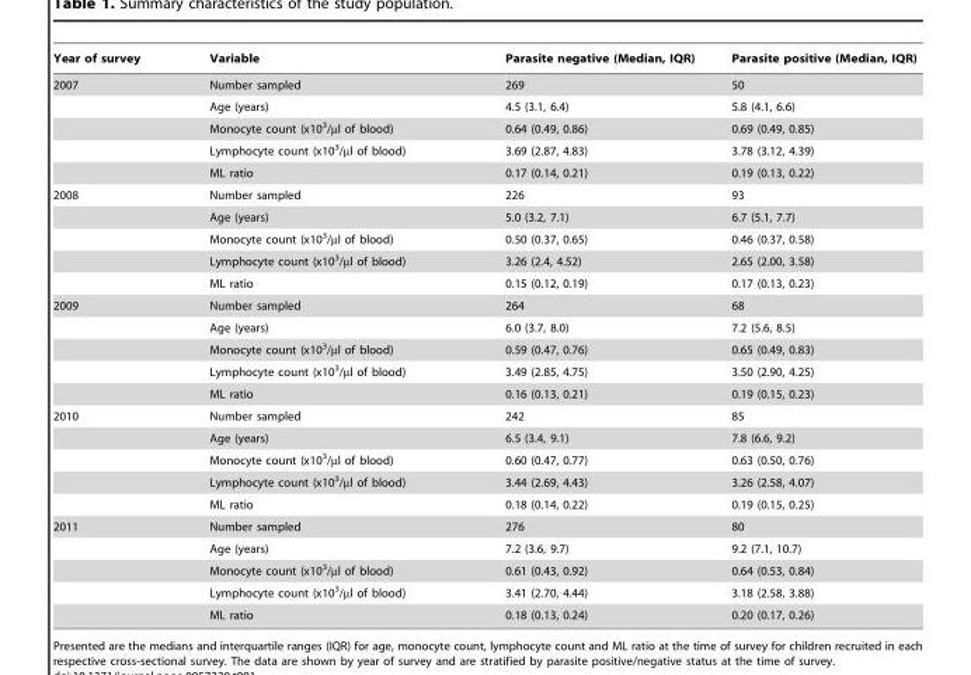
<table><thead><tr><td>Year of survey</td><td>Variable</td><td>Parasite negative (Median, IQR)</td><td>Parasite positive (Median, IQR)</td></tr></thead><tbody><tr><td rowspan="5">2007</td><td>Number sampled</td><td>269</td><td>50</td></tr><tr><td>Age (years)</td><td>4.5 (3.1, 6.4)</td><td>5.8 (4.1, 6.6)</td></tr><tr><td>Monocyte count (x10<sup>3</sup>/µl of blood)</td><td>0.64 (0.49, 0.86)</td><td>0.69 (0.49, 0.85)</td></tr><tr><td>Lymphocyte count (x10<sup>3</sup>/µl of blood)</td><td>3.69 (2.87, 4.83)</td><td>3.78 (3.12, 4.39)</td></tr><tr><td>ML ratio</td><td>0.17 (0.14, 0.21)</td><td>0.19 (0.13, 0.22)</td></tr><tr><td rowspan="5">2008</td><td>Number sampled</td><td>226</td><td>93</td></tr><tr><td>Age (years)</td><td>5.0 (3.2, 7.1)</td><td>6.7 (5.1, 7.7)</td></tr><tr><td>Monocyte count (x10<sup>3</sup>/µl of blood)</td><td>0.50 (0.37, 0.65)</td><td>0.46 (0.37, 0.58)</td></tr><tr><td>Lymphocyte count (x10<sup>3</sup>/µl of blood)</td><td>3.26 (2.4, 4.52)</td><td>2.65 (2.00, 3.58)</td></tr><tr><td>ML ratio</td><td>0.15 (0.12, 0.19)</td><td>0.17 (0.13, 0.23)</td></tr><tr><td rowspan="5">2009</td><td>Number sampled</td><td>264</td><td>68</td></tr><tr><td>Age (years)</td><td>6.0 (3.7, 8.0)</td><td>7.2 (5.6, 8.5)</td></tr><tr><td>Monocyte count (x10<sup>3</sup>/µl of blood)</td><td>0.59 (0.47, 0.76)</td><td>0.65 (0.49, 0.83)</td></tr><tr><td>Lymphocyte count (x10<sup>3</sup>/µl of blood)</td><td>3.49 (2.85, 4.75)</td><td>3.50 (2.90, 4.25)</td></tr><tr><td>ML ratio</td><td>0.16 (0.13, 0.21)</td><td>0.19 (0.15, 0.23)</td></tr><tr><td rowspan="5">2010</td><td>Number sampled</td><td>242</td><td>85</td></tr><tr><td>Age (years)</td><td>6.5 (3.4, 9.1)</td><td>7.8 (6.6, 9.2)</td></tr><tr><td>Monocyte count (x10<sup>3</sup>/µl of blood)</td><td>0.60 (0.47, 0.77)</td><td>0.63 (0.50, 0.76)</td></tr><tr><td>Lymphocyte count (x10<sup>3</sup>/µl of blood)</td><td>3.44 (2.69, 4.43)</td><td>3.26 (2.58, 4.07)</td></tr><tr><td>ML ratio</td><td>0.18 (0.14, 0.22)</td><td>0.19 (0.15, 0.25)</td></tr><tr><td rowspan="5">2011</td><td>Number sampled</td><td>276</td><td>80</td></tr><tr><td>Age (years)</td><td>7.2 (3.6, 9.7)</td><td>9.2 (7.1, 10.7)</td></tr><tr><td>Monocyte count (x10<sup>3</sup>/µl of blood)</td><td>0.61 (0.43, 0.92)</td><td>0.64 (0.53, 0.84)</td></tr><tr><td>Lymphocyte count (x10<sup>3</sup>/µl of blood)</td><td>3.41 (2.70, 4.44)</td><td>3.18 (2.58, 3.88)</td></tr><tr><td>ML ratio</td><td>0.18 (0.13, 0.24)</td><td>0.20 (0.17, 0.26)</td></tr></tbody></table>